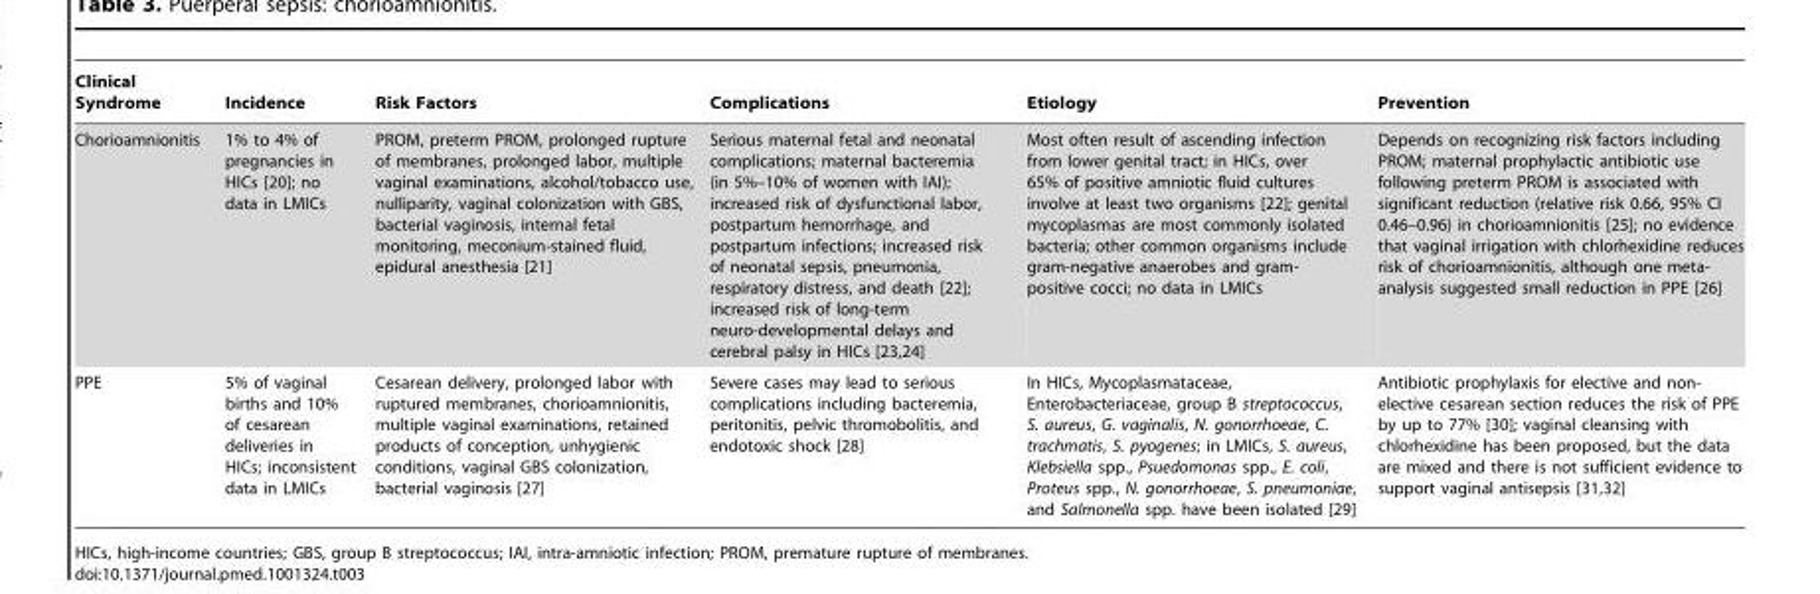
<table><thead><tr><td>Clinical Syndrome</td><td>Incidence</td><td>Risk Factors</td><td>Complications</td><td>Etiology</td><td>Prevention</td></tr></thead><tbody><tr><td>Chorioamnionitis</td><td>1% to 4% of pregnancies in HICs [20]; no data in LMICs</td><td>PROM, preterm PROM, prolonged rupture of membranes, prolonged labor, multiple vaginal examinations, alcohol/tobacco use, nulliparity, vaginal colonization with GBS, bacterial vaginosis, internal fetal monitoring, meconium-stained fluid, epidural anesthesia [21]</td><td>Serious maternal fetal and neonatal complications; maternal bacteremia (in 5%–10% of women with IAI); increased risk of dysfunctional labor, postpartum hemorrhage, and postpartum infections; increased risk of neonatal sepsis, pneumonia, respiratory distress, and death [22]; increased risk of long-term neuro-developmental delays and cerebral palsy in HICs [23,24]</td><td>Most often result of ascending infection from lower genital tract; in HICs, over 65% of positive amniotic fluid cultures involve at least two organisms [22]; genital mycoplasmas are most commonly isolated bacteria; other common organisms include gram-negative anaerobes and gram- positive cocci; no data in LMICs</td><td>Depends on recognizing risk factors including PROM; maternal prophylactic antibiotic use following preterm PROM is associated with significant reduction (relative risk 0.66, 95% CI 0.46–0.96) in chorioamnionitis [25]; no evidence that vaginal irrigation with chlorhexidine reduces risk of chorioamnionitis, although one meta- analysis suggested small reduction in PPE [26]</td></tr><tr><td>PPE</td><td>5% of vaginal births and 10% of cesarean deliveries in HICs; inconsistent data in LMICs</td><td>Cesarean delivery, prolonged labor with ruptured membranes, chorioamnionitis, multiple vaginal examinations, retained products of conception, unhygienic conditions, vaginal GBS colonization, bacterial vaginosis [27]</td><td>Severe cases may lead to serious complications including bacteremia, peritonitis, pelvic thromobolitis, and endotoxic shock [28]</td><td>In HICs, Mycoplasmataceae, Enterobacteriaceae, group B streptococcus, S. aureus, G. vaginalis, N. gonorrhoeae, C. trachmatis, S. pyogenes; in LMICs, S. aureus, Klebsiella spp., Psuedomonas spp., E. coli, Proteus spp., N. gonorrhoeae, S. pneumoniae, and Salmonella spp. have been isolated [29]</td><td>Antibiotic prophylaxis for elective and non- elective cesarean section reduces the risk of PPE by up to 77% [30]; vaginal cleansing with chlorhexidine has been proposed, but the data are mixed and there is not sufficient evidence to support vaginal antisepsis [31,32]</td></tr></tbody></table>